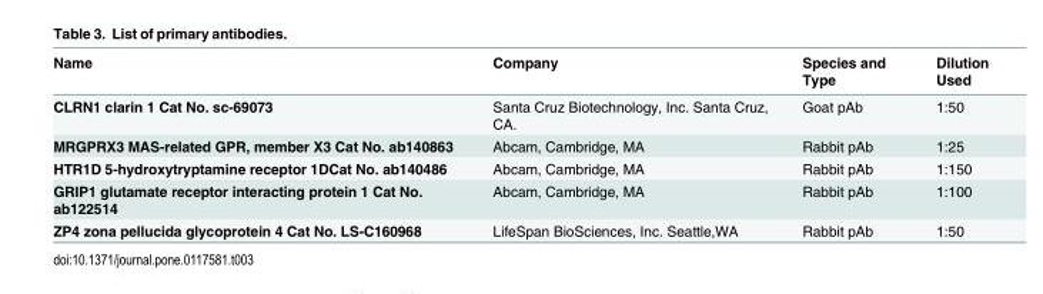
<table><thead><tr><td>Name</td><td>Company</td><td>Species and Type</td><td>Dilution Used</td></tr></thead><tbody><tr><td>CLRN1 clarin 1 Cat No. sc-69073</td><td>Santa Cruz Biotechnology, Inc. Santa Cruz, CA.</td><td>Goat pAb</td><td>1:50</td></tr><tr><td>MRGPRX3 MAS-related GPR, member X3 Cat No. ab140863</td><td>Abcam, Cambridge, MA</td><td>Rabbit pAb</td><td>1:25</td></tr><tr><td>HTR1D 5-hydroxytryptamine receptor 1DCat No. ab140486</td><td>Abcam, Cambridge, MA</td><td>Rabbit pAb</td><td>1:150</td></tr><tr><td>GRIP1 glutamate receptor interacting protein 1 Cat No. ab122514</td><td>Abcam, Cambridge, MA</td><td>Rabbit pAb</td><td>1:100</td></tr><tr><td>ZP4 zona pellucida glycoprotein 4 Cat No. LS-C160968</td><td>LifeSpan BioSciences, Inc. Seattle,WA</td><td>Rabbit pAb</td><td>1:50</td></tr></tbody></table>